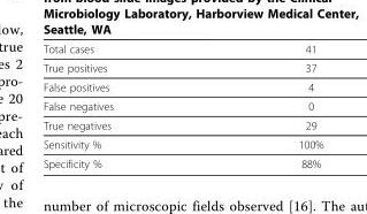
<table><thead><tr><td>Total cases</td><td>41</td></tr></thead><tbody><tr><td>True positives</td><td>37</td></tr><tr><td>False positives</td><td>4</td></tr><tr><td>False negatives</td><td>0</td></tr><tr><td>True negatives</td><td>29</td></tr><tr><td>Sensitivity %</td><td>100%</td></tr><tr><td>Specificity %</td><td>88%</td></tr></tbody></table>